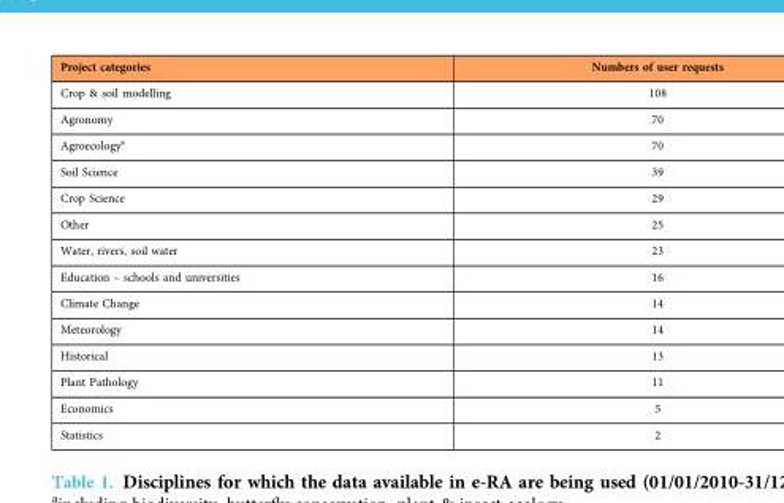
<table><thead><tr><td>Project categories</td><td>Numbers of user requests</td></tr></thead><tbody><tr><td>Crop &amp; soil modelling</td><td>108</td></tr><tr><td>Agronomy</td><td>70</td></tr><tr><td>Agroecology<sup>a</sup></td><td>70</td></tr><tr><td>Soil Science</td><td>39</td></tr><tr><td>Crop Science</td><td>29</td></tr><tr><td>Other</td><td>25</td></tr><tr><td>Water, rivers, soil water</td><td>23</td></tr><tr><td>Education – schools and universities</td><td>16</td></tr><tr><td>Climate Change</td><td>14</td></tr><tr><td>Meteorology</td><td>14</td></tr><tr><td>Historical</td><td>13</td></tr><tr><td>Plant Pathology</td><td>11</td></tr><tr><td>Economics</td><td>5</td></tr><tr><td>Statistics</td><td>2</td></tr></tbody></table>